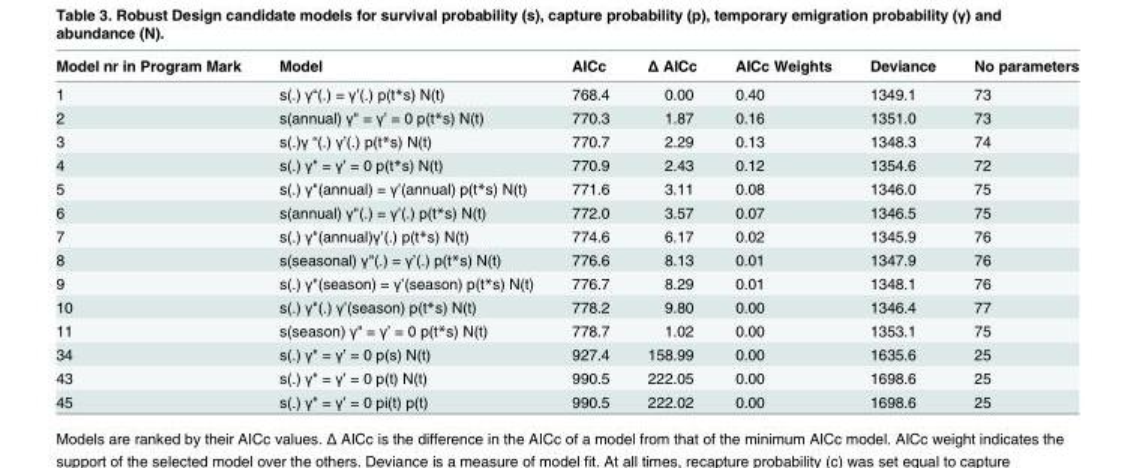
<table><thead><tr><td>Model nr in Program Mark</td><td>Model</td><td>AICc</td><td>Δ AICc</td><td>AICc Weights</td><td>Deviance</td><td>No parameters</td></tr></thead><tbody><tr><td>1</td><td>s(.) γ“(.) = γ’(.) p(t*s) N(t)</td><td>768.4</td><td>0.00</td><td>0.40</td><td>1349.1</td><td>73</td></tr><tr><td>2</td><td>s(annual) γ&quot; = γ’ = 0 p(t*s) N(t)</td><td>770.3</td><td>1.87</td><td>0.16</td><td>1351.0</td><td>73</td></tr><tr><td>3</td><td>s(.)γ “(.) γ’(.) p(t*s) N(t)</td><td>770.7</td><td>2.29</td><td>0.13</td><td>1348.3</td><td>74</td></tr><tr><td>4</td><td>s(.) γ&quot; = γ’ = 0 p(t*s) N(t)</td><td>770.9</td><td>2.43</td><td>0.12</td><td>1354.6</td><td>72</td></tr><tr><td>5</td><td>s(.) γ&quot;(annual) = γ’(annual) p(t*s) N(t)</td><td>771.6</td><td>3.11</td><td>0.08</td><td>1346.0</td><td>75</td></tr><tr><td>6</td><td>s(annual) γ&quot;(.) = γ’(.) p(t*s) N(t)</td><td>772.0</td><td>3.57</td><td>0.07</td><td>1346.5</td><td>75</td></tr><tr><td>7</td><td>s(.) γ&quot;(annual)γ’(.) p(t*s) N(t)</td><td>774.6</td><td>6.17</td><td>0.02</td><td>1345.9</td><td>76</td></tr><tr><td>8</td><td>s(seasonal) γ&quot;(.) = γ’(.) p(t*s) N(t)</td><td>776.6</td><td>8.13</td><td>0.01</td><td>1347.9</td><td>76</td></tr><tr><td>9</td><td>s(.) γ&quot;(season) = γ’(season) p(t*s) N(t)</td><td>776.7</td><td>8.29</td><td>0.01</td><td>1348.1</td><td>76</td></tr><tr><td>10</td><td>s(.) γ&quot;(.) γ’(season) p(t*s) N(t)</td><td>778.2</td><td>9.80</td><td>0.00</td><td>1346.4</td><td>77</td></tr><tr><td>11</td><td>s(season) γ&quot; = γ’ = 0 p(t*s) N(t)</td><td>778.7</td><td>1.02</td><td>0.00</td><td>1353.1</td><td>75</td></tr><tr><td>34</td><td>s(.) γ&quot; = γ’ = 0 p(s) N(t)</td><td>927.4</td><td>158.99</td><td>0.00</td><td>1635.6</td><td>25</td></tr><tr><td>43</td><td>s(.) γ&quot; = γ’ = 0 p(t) N(t)</td><td>990.5</td><td>222.05</td><td>0.00</td><td>1698.6</td><td>25</td></tr><tr><td>45</td><td>s(.) γ&quot; = γ’ = 0 pi(t) p(t)</td><td>990.5</td><td>222.02</td><td>0.00</td><td>1698.6</td><td>25</td></tr></tbody></table>